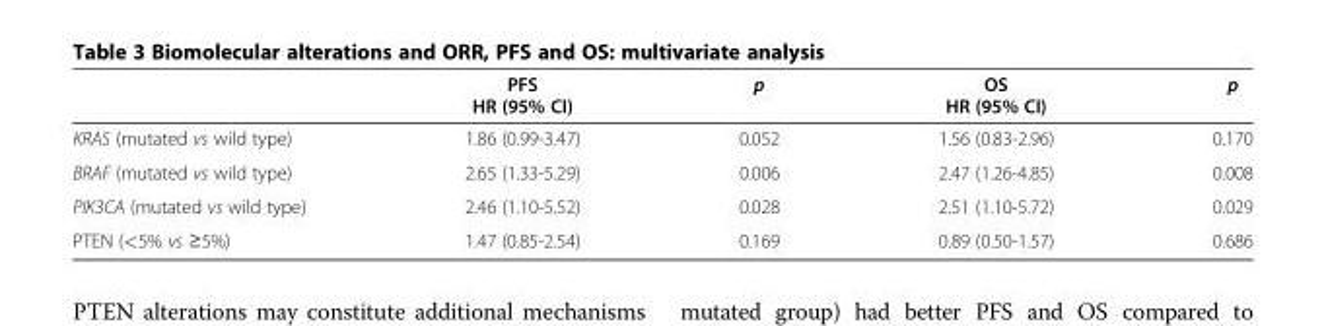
<table><thead><tr><td></td><td>PFS HR (95% CI)</td><td>p</td><td>OS HR (95% CI)</td><td>p</td></tr></thead><tbody><tr><td>KRAS (mutated vs wild type)</td><td>1.86 (0.99-3.47)</td><td>0.052</td><td>1.56 (0.83-2.96)</td><td>0.170</td></tr><tr><td>BRAF (mutated vs wild type)</td><td>2.65 (1.33-5.29)</td><td>0.006</td><td>2.47 (1.26-4.85)</td><td>0.008</td></tr><tr><td>PIK3CA (mutated vs wild type)</td><td>2.46 (1.10-5.52)</td><td>0.028</td><td>2.51 (1.10-5.72)</td><td>0.029</td></tr><tr><td>PTEN (&lt;5% vs ≥5%)</td><td>1.47 (0.85-2.54)</td><td>0.169</td><td>0.89 (0.50-1.57)</td><td>0.686</td></tr></tbody></table>